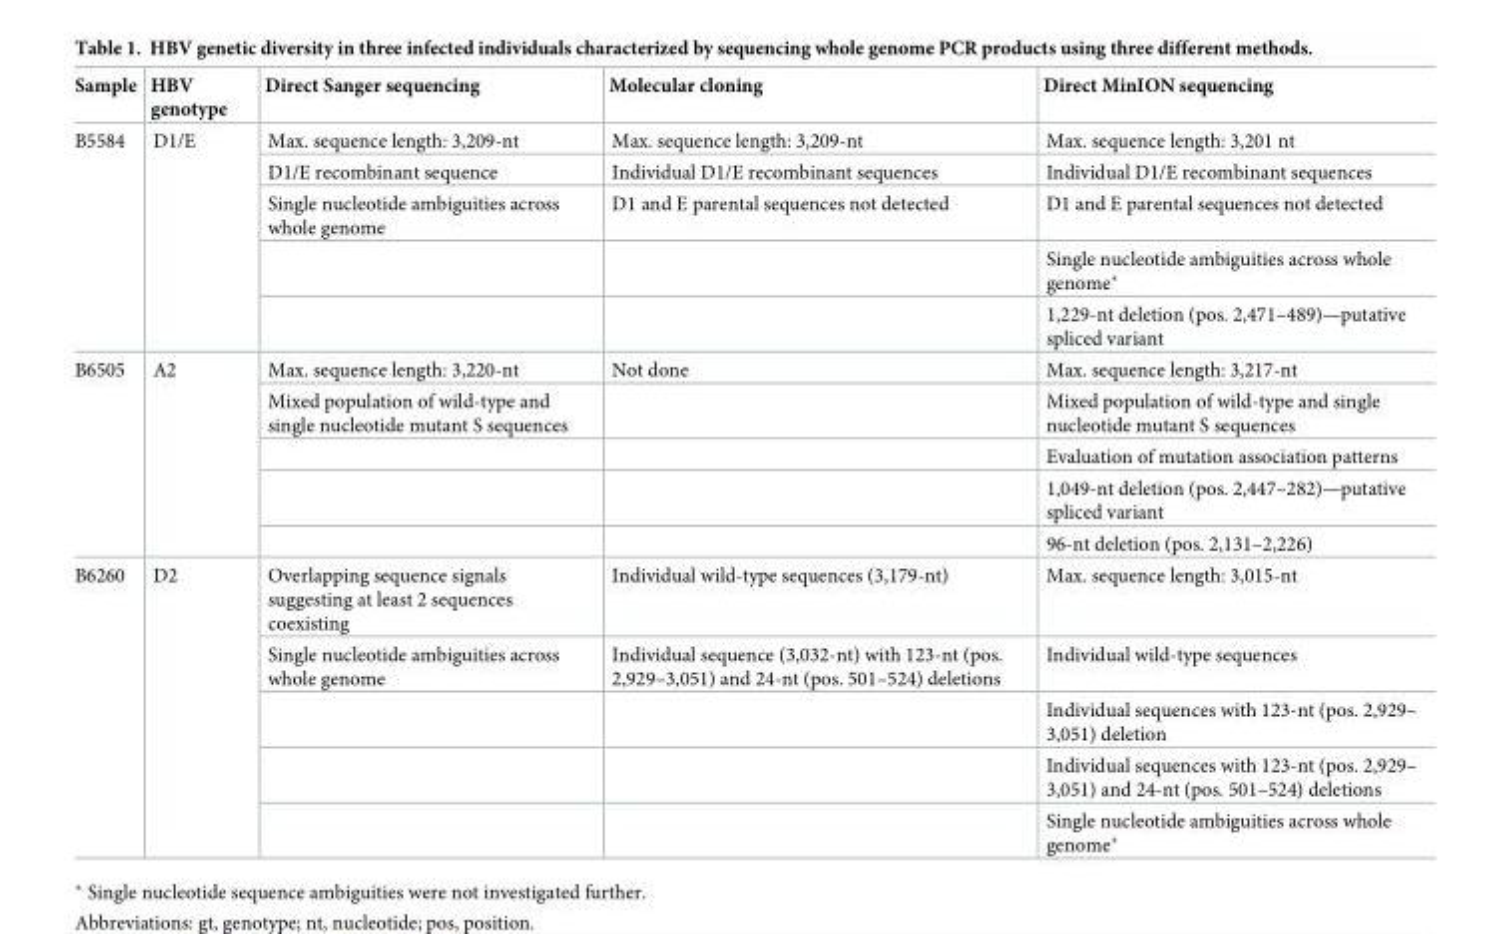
<table><thead><tr><td>Sample</td><td>HBV genotype</td><td>Direct Sanger sequencing</td><td>Molecular cloning</td><td>Direct MinION sequencing</td></tr></thead><tbody><tr><td rowspan="5">B5584</td><td rowspan="5">D1/E</td><td>Max. sequence length: 3,209-nt</td><td>Max. sequence length: 3,209-nt</td><td>Max. sequence length: 3,201 nt</td></tr><tr><td>D1/E recombinant sequence</td><td>Individual D1/E recombinant sequences</td><td>Individual D1/E recombinant sequences</td></tr><tr><td>Single nucleotide ambiguities across whole genome</td><td>D1 and E parental sequences not detected</td><td>D1 and E parental sequences not detected</td></tr><tr><td></td><td></td><td>Single nucleotide ambiguities across whole genome*</td></tr><tr><td></td><td></td><td>1,229-nt deletion (pos. 2,471–489)—putative spliced variant</td></tr><tr><td rowspan="5">B6505</td><td rowspan="5">A2</td><td>Max. sequence length: 3,220-nt</td><td>Not done</td><td>Max. sequence length: 3,217-nt</td></tr><tr><td>Mixed population of wild-type and single nucleotide mutant S sequences</td><td></td><td>Mixed population of wild-type and single nucleotide mutant S sequences</td></tr><tr><td></td><td></td><td>Evaluation of mutation association patterns</td></tr><tr><td></td><td></td><td>1,049-nt deletion (pos. 2,447–282)—putative spliced variant</td></tr><tr><td></td><td></td><td>96-nt deletion (pos. 2,131–2,226)</td></tr><tr><td rowspan="5">B6260</td><td rowspan="5">D2</td><td>Overlapping sequence signals suggesting at least 2 sequences coexisting</td><td>Individual wild-type sequences (3,179-nt)</td><td>Max. sequence length: 3,015-nt</td></tr><tr><td>Single nucleotide ambiguities across whole genome</td><td>Individual sequence (3,032-nt) with 123-nt (pos. 2,929–3,051) and 24-nt (pos. 501–524) deletions</td><td>Individual wild-type sequences</td></tr><tr><td></td><td></td><td>Individual sequences with 123-nt (pos. 2,929– 3,051) deletion</td></tr><tr><td></td><td></td><td>Individual sequences with 123-nt (pos. 2,929– 3,051) and 24-nt (pos. 501–524) deletions</td></tr><tr><td></td><td></td><td>Single nucleotide ambiguities across whole genome*</td></tr></tbody></table>